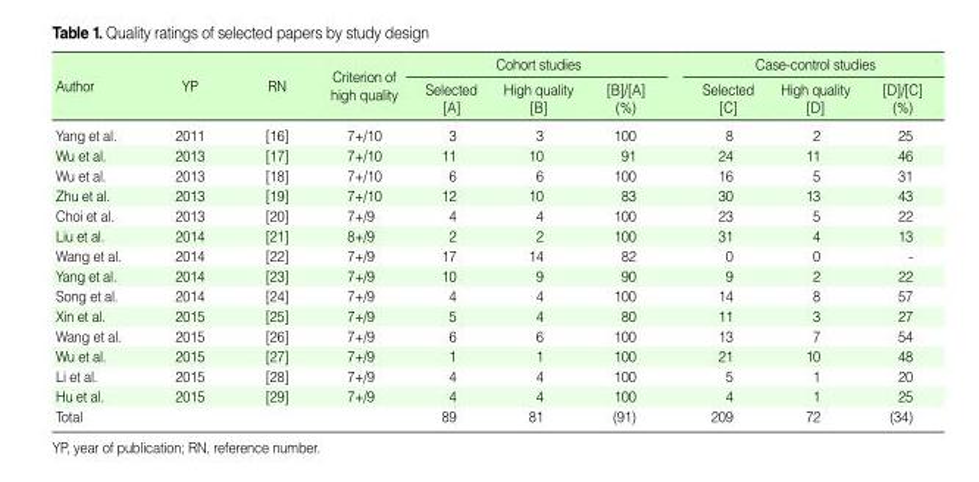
<table><thead><tr><td rowspan="2">Author</td><td rowspan="2">YP</td><td rowspan="2">RN</td><td rowspan="2">Criterion of high quality</td><td colspan="3">Cohort studies</td><td colspan="3">Case-control studies</td></tr><tr><td>Selected [A]</td><td>High quality [B]</td><td>[B]/[A] (%)</td><td>Selected [C]</td><td>High quality [D]</td><td>[D]/[C] (%)</td></tr></thead><tbody><tr><td>Yang et al.</td><td>2011</td><td>[16]</td><td>7+/10</td><td>3</td><td>3</td><td>100</td><td>8</td><td>2</td><td>25</td></tr><tr><td>Wu et al.</td><td>2013</td><td>[17]</td><td>7+/10</td><td>11</td><td>10</td><td>91</td><td>24</td><td>11</td><td>46</td></tr><tr><td>Wu et al.</td><td>2013</td><td>[18]</td><td>7+/10</td><td>6</td><td>6</td><td>100</td><td>16</td><td>5</td><td>31</td></tr><tr><td>Zhu et al.</td><td>2013</td><td>[19]</td><td>7+/10</td><td>12</td><td>10</td><td>83</td><td>30</td><td>13</td><td>43</td></tr><tr><td>Choi et al.</td><td>2013</td><td>[20]</td><td>7+/9</td><td>4</td><td>4</td><td>100</td><td>23</td><td>5</td><td>22</td></tr><tr><td>Liu et al.</td><td>2014</td><td>[21]</td><td>8+/9</td><td>2</td><td>2</td><td>100</td><td>31</td><td>4</td><td>13</td></tr><tr><td>Wang et al.</td><td>2014</td><td>[22]</td><td>7+/9</td><td>17</td><td>14</td><td>82</td><td>0</td><td>0</td><td>-</td></tr><tr><td>Yang et al.</td><td>2014</td><td>[23]</td><td>7+/9</td><td>10</td><td>9</td><td>90</td><td>9</td><td>2</td><td>22</td></tr><tr><td>Song et al.</td><td>2014</td><td>[24]</td><td>7+/9</td><td>4</td><td>4</td><td>100</td><td>14</td><td>8</td><td>57</td></tr><tr><td>Xin et al.</td><td>2015</td><td>[25]</td><td>7+/9</td><td>5</td><td>4</td><td>80</td><td>11</td><td>3</td><td>27</td></tr><tr><td>Wang et al.</td><td>2015</td><td>[26]</td><td>7+/9</td><td>6</td><td>6</td><td>100</td><td>13</td><td>7</td><td>54</td></tr><tr><td>Wu et al.</td><td>2015</td><td>[27]</td><td>7+/9</td><td>1</td><td>1</td><td>100</td><td>21</td><td>10</td><td>48</td></tr><tr><td>Li et al.</td><td>2015</td><td>[28]</td><td>7+/9</td><td>4</td><td>4</td><td>100</td><td>5</td><td>1</td><td>20</td></tr><tr><td>Hu et al.</td><td>2015</td><td>[29]</td><td>7+/9</td><td>4</td><td>4</td><td>100</td><td>4</td><td>1</td><td>25</td></tr><tr><td>Total</td><td></td><td></td><td></td><td>89</td><td>81</td><td>(91)</td><td>209</td><td>72</td><td>(34)</td></tr></tbody></table>